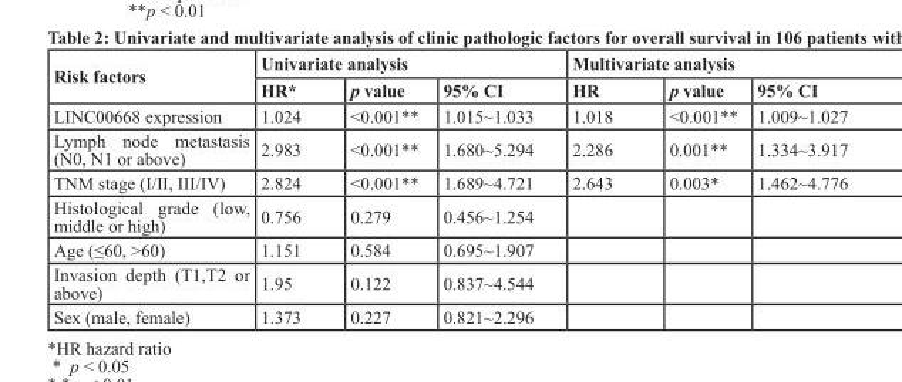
<table><thead><tr><td rowspan="2">Risk factors</td><td colspan="3">Univariate analysis</td><td colspan="3">Multivariate analysis</td></tr><tr><td>HR*</td><td>p value</td><td>95% CI</td><td>HR</td><td>p value</td><td>95% CI</td></tr></thead><tbody><tr><td>LINC00668 expression</td><td>1.024</td><td>&lt;0.001**</td><td>1.015~1.033</td><td>1.018</td><td>&lt;0.001**</td><td>1.009~1.027</td></tr><tr><td>Lymph node metastasis (N0, N1 or above)</td><td>2.983</td><td>&lt;0.001**</td><td>1.680~5.294</td><td>2.286</td><td>0.001**</td><td>1.334~3.917</td></tr><tr><td>TNM stage (I/II, III/IV)</td><td>2.824</td><td>&lt;0.001**</td><td>1.689~4.721</td><td>2.643</td><td>0.003*</td><td>1.462~4.776</td></tr><tr><td>Histological grade (low, middle or high)</td><td>0.756</td><td>0.279</td><td>0.456~1.254</td><td></td><td></td><td></td></tr><tr><td>Age (≤60, &gt;60)</td><td>1.151</td><td>0.584</td><td>0.695~1.907</td><td></td><td></td><td></td></tr><tr><td>Invasion depth (T1,T2 or above)</td><td>1.95</td><td>0.122</td><td>0.837~4.544</td><td></td><td></td><td></td></tr><tr><td>Sex (male, female)</td><td>1.373</td><td>0.227</td><td>0.821~2.296</td><td></td><td></td><td></td></tr></tbody></table>